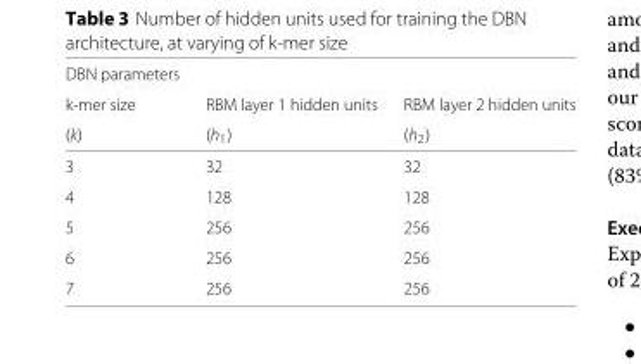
<table><thead><tr><td rowspan="3">DBN parameters k-mer size (k)</td><td rowspan="3">RBM layer 1 hidden units (h<sub>1</sub>)</td><td rowspan="3">RBM layer 2 hidden units (h<sub>2</sub>)</td></tr><tr></tr><tr></tr></thead><tbody><tr><td>3</td><td>32</td><td>32</td></tr><tr><td>4</td><td>128</td><td>128</td></tr><tr><td>5</td><td>256</td><td>256</td></tr><tr><td>6</td><td>256</td><td>256</td></tr><tr><td>7</td><td>256</td><td>256</td></tr></tbody></table>